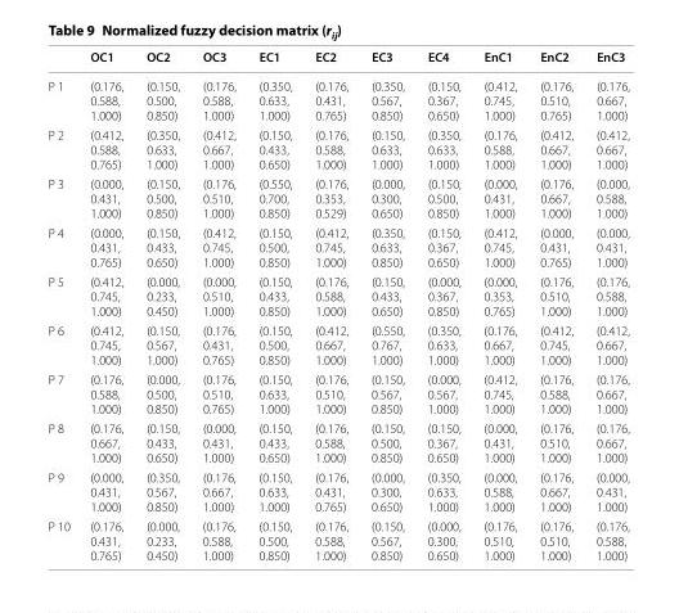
<table><thead><tr><td></td><td>OC1</td><td>OC2</td><td>OC3</td><td>EC1</td><td>EC2</td><td>EC3</td><td>EC4</td><td>EnC1</td><td>EnC2</td><td>EnC3</td></tr></thead><tbody><tr><td>P 1</td><td>(0.176, 0.588, 1.000)</td><td>(0.150, 0.500, 0.850)</td><td>(0.176, 0.588, 1.000)</td><td>(0.350, 0.633, 1.000)</td><td>(0.176, 0.431, 0.765)</td><td>(0.350, 0.567, 0.850)</td><td>(0.150, 0.367, 0.650)</td><td>(0.412, 0.745, 1.000)</td><td>(0.176, 0.510, 0.765)</td><td>(0.176, 0.667, 1.000)</td></tr><tr><td>P 2</td><td>(0.412, 0.588, 0.765)</td><td>(0.350, 0.633, 1.000)</td><td>(0.412, 0.667, 1.000)</td><td>(0.150, 0.433, 0.650)</td><td>(0.176, 0.588, 1.000)</td><td>(0.150, 0.633, 1.000)</td><td>(0.350, 0.633, 1.000)</td><td>(0.176, 0.588, 1.000)</td><td>(0.412, 0.667, 1.000)</td><td>(0.412, 0.667, 1.000)</td></tr><tr><td>P 3</td><td>(0.000, 0.431, 1.000)</td><td>(0.150, 0.500, 0.850)</td><td>(0.176, 0.510, 1.000)</td><td>(0.550, 0.700, 0.850)</td><td>(0.176, 0.353, 0.529)</td><td>(0.000, 0.300, 0.650)</td><td>(0.150, 0.500, 0.850)</td><td>(0.000, 0.431, 1.000)</td><td>(0.176, 0.667, 1.000)</td><td>(0.000, 0.588, 1.000)</td></tr><tr><td>P 4</td><td>(0.000, 0.431, 0.765)</td><td>(0.150, 0.433, 0.650)</td><td>(0.412, 0.745, 1.000)</td><td>(0.150, 0.500, 0.850)</td><td>(0.412, 0.745, 1.000)</td><td>(0.350, 0.633, 0.850)</td><td>(0.150, 0.367, 0.650)</td><td>(0.412, 0.745, 1.000)</td><td>(0.000, 0.431, 0.765)</td><td>(0.000, 0.431, 1.000)</td></tr><tr><td>P 5</td><td>(0.412, 0.745, 1.000)</td><td>(0.000, 0.233, 0.450)</td><td>(0.000, 0.510, 1.000)</td><td>(0.150, 0.433, 0.850)</td><td>(0.176, 0.588, 1.000)</td><td>(0.150, 0.433, 0.650)</td><td>(0.000, 0.367, 0.850)</td><td>(0.000, 0.353, 0.765)</td><td>(0.176, 0.510, 1.000)</td><td>(0.176, 0.588, 1.000)</td></tr><tr><td>P 6</td><td>(0.412, 0.745, 1.000)</td><td>(0.150, 0.567, 1.000)</td><td>(0.176, 0.431, 0.765)</td><td>(0.150, 0.500, 0.850)</td><td>(0.412, 0.667, 1.000)</td><td>(0.550, 0.767, 1.000)</td><td>(0.350, 0.633, 1.000)</td><td>(0.176, 0.667, 1.000)</td><td>(0.412, 0.745, 1.000)</td><td>(0.412, 0.667, 1.000)</td></tr><tr><td>P 7</td><td>(0.176, 0.588, 1.000)</td><td>(0.000, 0.500, 0.850)</td><td>(0.176, 0.510, 0.765)</td><td>(0.150, 0.633, 1.000)</td><td>(0.176, 0.510, 1.000)</td><td>(0.150, 0.567, 0.850)</td><td>(0.000, 0.567, 1.000)</td><td>(0.412, 0.745, 1.000)</td><td>(0.176, 0.588, 1.000)</td><td>(0.176, 0.667, 1.000)</td></tr><tr><td>P 8</td><td>(0.176, 0.667, 1.000)</td><td>(0.150, 0.433, 0.650)</td><td>(0.000, 0.431, 1.000)</td><td>(0.150, 0.433, 0.650)</td><td>(0.176, 0.588, 1.000)</td><td>(0.150, 0.500, 0.850)</td><td>(0.150, 0.367, 0.650)</td><td>(0.000, 0.431, 1.000)</td><td>(0.176, 0.510, 1.000)</td><td>(0.176, 0.667, 1.000)</td></tr><tr><td>P 9</td><td>(0.000, 0.431, 1.000)</td><td>(0.350, 0.567, 0.850)</td><td>(0.176, 0.667, 1.000)</td><td>(0.150, 0.633, 1.000)</td><td>(0.176, 0.431, 0.765)</td><td>(0.000, 0.300, 0.650)</td><td>(0.350, 0.633, 1.000)</td><td>(0.000, 0.588, 1.000)</td><td>(0.176, 0.667, 1.000)</td><td>(0.000, 0.431, 1.000)</td></tr><tr><td>P 10</td><td>(0.176, 0.431, 0.765)</td><td>(0.000, 0.233, 0.450)</td><td>(0.176, 0.588, 1.000)</td><td>(0.150, 0.500, 0.850)</td><td>(0.176, 0.588, 1.000)</td><td>(0.150, 0.567, 0.850)</td><td>(0.000, 0.300, 0.650)</td><td>(0.176, 0.510, 1.000)</td><td>(0.176, 0.510, 1.000)</td><td>(0.176, 0.588, 1.000)</td></tr></tbody></table>